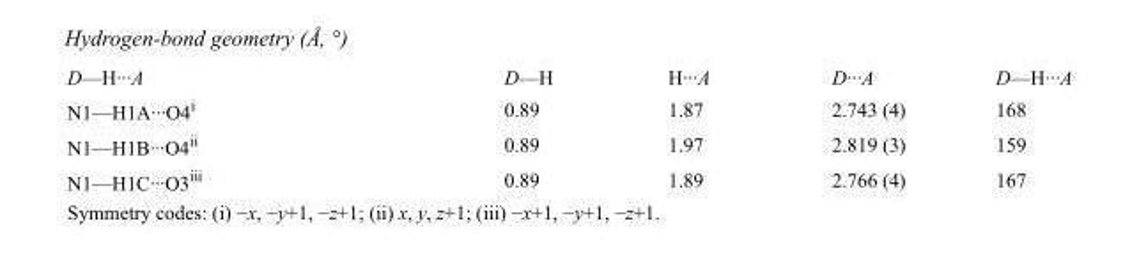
<table><tbody><tr><td>D—H···A</td><td>D—H</td><td>H···A</td><td>D···A</td><td>D—H···A</td></tr><tr><td>N1—H1A···O4<sup>i</sup></td><td>0.89</td><td>1.87</td><td>2.743 (4)</td><td>168</td></tr><tr><td>N1—H1B···O4<sup>ii</sup></td><td>0.89</td><td>1.97</td><td>2.819 (3)</td><td>159</td></tr><tr><td>N1—H1C···O3<sup>iii</sup></td><td>0.89</td><td>1.89</td><td>2.766 (4)</td><td>167</td></tr></tbody></table>